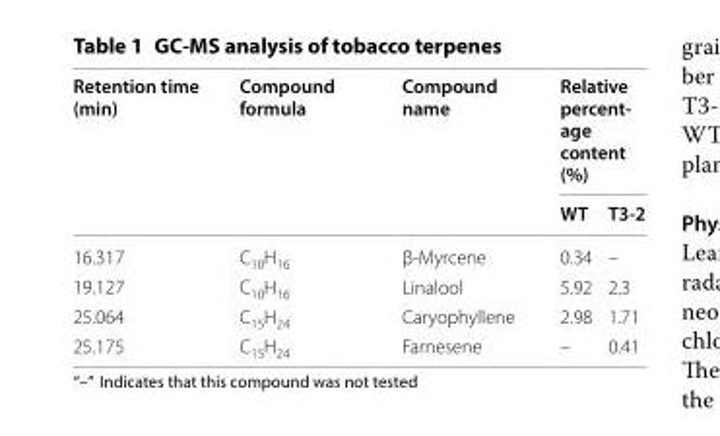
<table><thead><tr><td rowspan="2">Retention time (min)</td><td rowspan="2">Compound formula</td><td rowspan="2">Compound name</td><td colspan="2">Relative percent- age content (%)</td></tr><tr><td>WT</td><td>T3-2</td></tr></thead><tbody><tr><td>16.317</td><td>C<sub>10</sub>H<sub>16</sub></td><td>β-Myrcene</td><td>0.34</td><td>–</td></tr><tr><td>19.127</td><td>C<sub>10</sub>H<sub>16</sub></td><td>Linalool</td><td>5.92</td><td>2.3</td></tr><tr><td>25.064</td><td>C<sub>15</sub>H<sub>24</sub></td><td>Caryophyllene</td><td>2.98</td><td>1.71</td></tr><tr><td>25.175</td><td>C<sub>15</sub>H<sub>24</sub></td><td>Farnesene</td><td>–</td><td>0.41</td></tr></tbody></table>